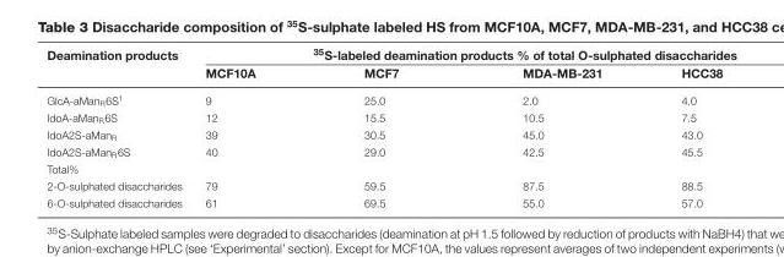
<table><thead><tr><td rowspan="2">Deamination products</td><td colspan="4"><sup>35</sup>S-labeled deamination products % of total O-sulphated disaccharides</td></tr><tr><td>MCF10A</td><td>MCF7</td><td>MDA-MB-231</td><td>HCC38</td></tr></thead><tbody><tr><td>GlcA-aMan<sub>R</sub>6S<sup>1</sup></td><td>9</td><td>25.0</td><td>2.0</td><td>4.0</td></tr><tr><td>IdoA-aMan<sub>R</sub>6S</td><td>12</td><td>15.5</td><td>10.5</td><td>7.5</td></tr><tr><td>IdoA2S-aMan<sub>R</sub></td><td>39</td><td>30.5</td><td>45.0</td><td>43.0</td></tr><tr><td>IdoA2S-aMan<sub>R</sub>6S</td><td>40</td><td>29.0</td><td>42.5</td><td>45.5</td></tr><tr><td colspan="5">Total%</td></tr><tr><td>2-O-sulphated disaccharides</td><td>79</td><td>59.5</td><td>87.5</td><td>88.5</td></tr><tr><td>6-O-sulphated disaccharides</td><td>61</td><td>69.5</td><td>55.0</td><td>57.0</td></tr></tbody></table>